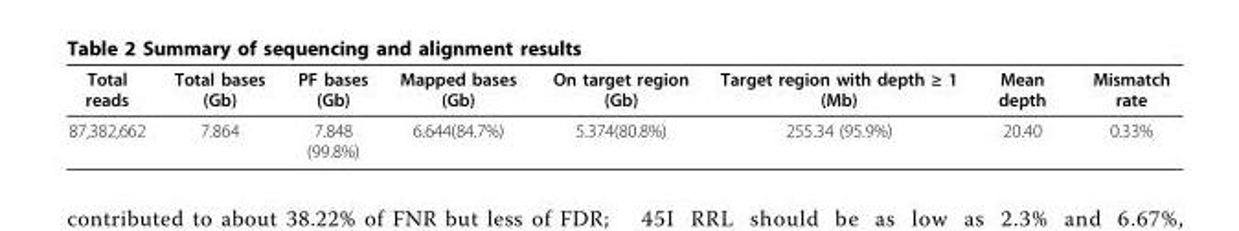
<table><thead><tr><td>Total reads</td><td>Total bases (Gb)</td><td>PF bases (Gb)</td><td>Mapped bases (Gb)</td><td>On target region (Gb)</td><td>Target region with depth ≥ 1 (Mb)</td><td>Mean depth</td><td>Mismatch rate</td></tr></thead><tbody><tr><td>87,382,662</td><td>7.864</td><td>7.848 (99.8%)</td><td>6.644(84.7%)</td><td>5.374(80.8%)</td><td>255.34 (95.9%)</td><td>20.40</td><td>0.33%</td></tr></tbody></table>